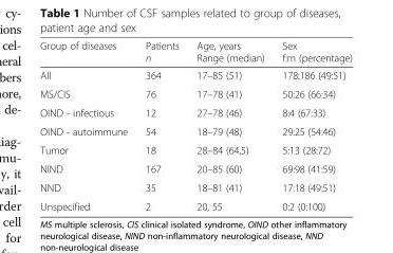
<table><thead><tr><td>Group of diseases</td><td>Patients n</td><td>Age, years Range (median)</td><td>Sex f:m (percentage)</td></tr></thead><tbody><tr><td>All</td><td>364</td><td>17–85 (51)</td><td>178:186 (49:51)</td></tr><tr><td>MS/CIS</td><td>76</td><td>17–78 (41)</td><td>50:26 (66:34)</td></tr><tr><td>OIND - infectious</td><td>12</td><td>27–78 (46)</td><td>8:4 (67:33)</td></tr><tr><td>OIND - autoimmune</td><td>54</td><td>18–79 (48)</td><td>29:25 (54:46)</td></tr><tr><td>Tumor</td><td>18</td><td>28–84 (64,5)</td><td>5:13 (28:72)</td></tr><tr><td>NIND</td><td>167</td><td>20–85 (60)</td><td>69:98 (41:59)</td></tr><tr><td>NND</td><td>35</td><td>18–81 (41)</td><td>17:18 (49:51)</td></tr><tr><td>Unspecified</td><td>2</td><td>20, 55</td><td>0:2 (0:100)</td></tr></tbody></table>